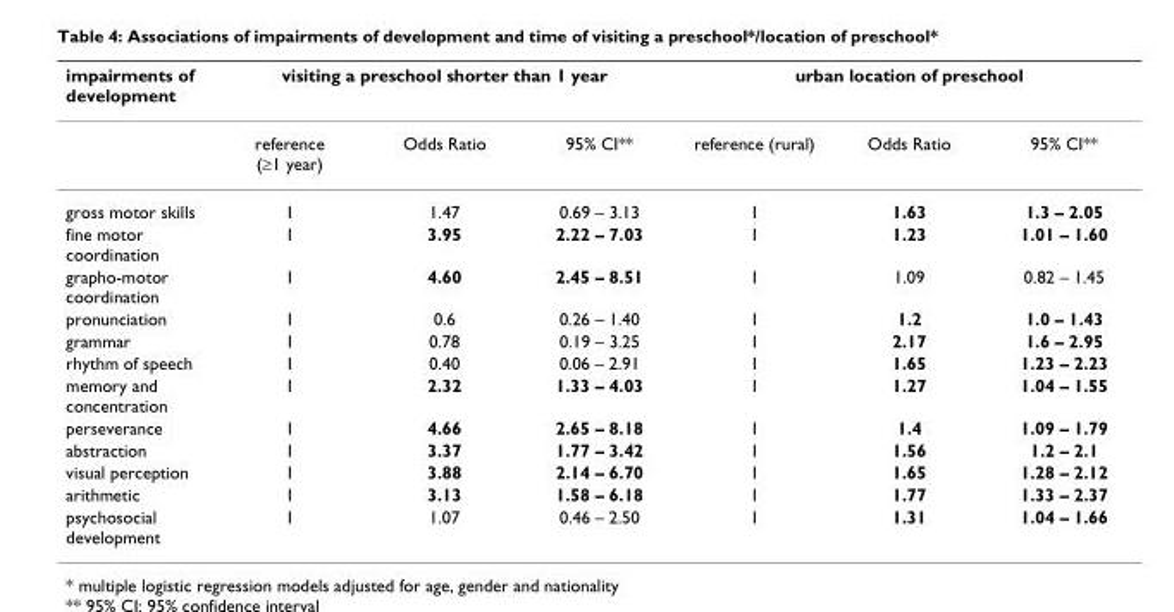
<table><thead><tr><td rowspan="2">impairments of development</td><td colspan="3">visiting a preschool shorter than 1 year</td><td colspan="3">urban location of preschool</td></tr><tr><td>reference (≥1 year)</td><td>Odds Ratio</td><td>95% CI**</td><td>reference (rural)</td><td>Odds Ratio</td><td>95% CI**</td></tr></thead><tbody><tr><td>gross motor skills</td><td>1</td><td>1.47</td><td>0.69 – 3.13</td><td>1</td><td>1.63</td><td>1.3 – 2.05</td></tr><tr><td>fine motor coordination</td><td>1</td><td>3.95</td><td>2.22 – 7.03</td><td>1</td><td>1.23</td><td>1.01 – 1.60</td></tr><tr><td>grapho-motor coordination</td><td>1</td><td>4.60</td><td>2.45 – 8.51</td><td>1</td><td>1.09</td><td>0.82 – 1.45</td></tr><tr><td>pronunciation</td><td>1</td><td>0.6</td><td>0.26 – 1.40</td><td>1</td><td>1.2</td><td>1.0 – 1.43</td></tr><tr><td>grammar</td><td>1</td><td>0.78</td><td>0.19 – 3.25</td><td>1</td><td>2.17</td><td>1.6 – 2.95</td></tr><tr><td>rhythm of speech</td><td>1</td><td>0.40</td><td>0.06 – 2.91</td><td>1</td><td>1.65</td><td>1.23 – 2.23</td></tr><tr><td>memory and concentration</td><td>1</td><td>2.32</td><td>1.33 – 4.03</td><td>1</td><td>1.27</td><td>1.04 – 1.55</td></tr><tr><td>perseverance</td><td>1</td><td>4.66</td><td>2.65 – 8.18</td><td>1</td><td>1.4</td><td>1.09 – 1.79</td></tr><tr><td>abstraction</td><td>1</td><td>3.37</td><td>1.77 – 3.42</td><td>1</td><td>1.56</td><td>1.2 – 2.1</td></tr><tr><td>visual perception</td><td>1</td><td>3.88</td><td>2.14 – 6.70</td><td>1</td><td>1.65</td><td>1.28 – 2.12</td></tr><tr><td>arithmetic</td><td>1</td><td>3.13</td><td>1.58 – 6.18</td><td>1</td><td>1.77</td><td>1.33 – 2.37</td></tr><tr><td>psychosocial development</td><td>1</td><td>1.07</td><td>0.46 – 2.50</td><td>1</td><td>1.31</td><td>1.04 – 1.66</td></tr></tbody></table>